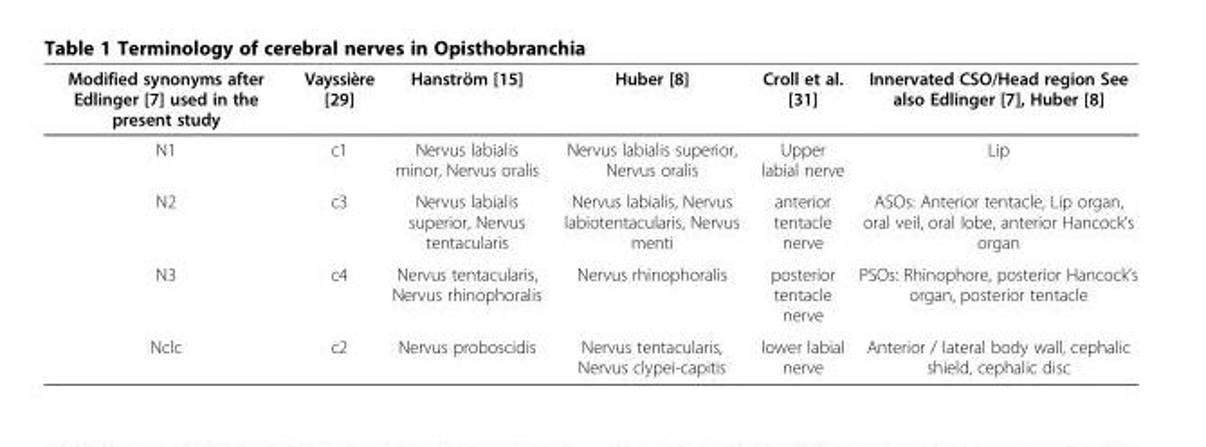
<table><thead><tr><td>Modified synonyms after Edlinger [7] used in the present study</td><td>Vayssière [29]</td><td>Hanström [15]</td><td>Huber [8]</td><td>Croll et al. [31]</td><td>Innervated CSO/Head region See also Edlinger [7], Huber [8]</td></tr></thead><tbody><tr><td>N1</td><td>c1</td><td>Nervus labialis minor, Nervus oralis</td><td>Nervus labialis superior, Nervus oralis</td><td>Upper labial nerve</td><td>Lip</td></tr><tr><td>N2</td><td>c3</td><td>Nervus labialis superior, Nervus tentacularis</td><td>Nervus labialis, Nervus labiotentacularis, Nervus menti</td><td>anterior tentacle nerve</td><td>ASOs: Anterior tentacle, Lip organ, oral veil, oral lobe, anterior Hancock’s organ</td></tr><tr><td>N3</td><td>c4</td><td>Nervus tentacularis, Nervus rhinophoralis</td><td>Nervus rhinophoralis</td><td>posterior tentacle nerve</td><td>PSOs: Rhinophore, posterior Hancock’s organ, posterior tentacle</td></tr><tr><td>Nclc</td><td>c2</td><td>Nervus proboscidis</td><td>Nervus tentacularis, Nervus clypei-capitis</td><td>lower labial nerve</td><td>Anterior / lateral body wall, cephalic shield, cephalic disc</td></tr></tbody></table>